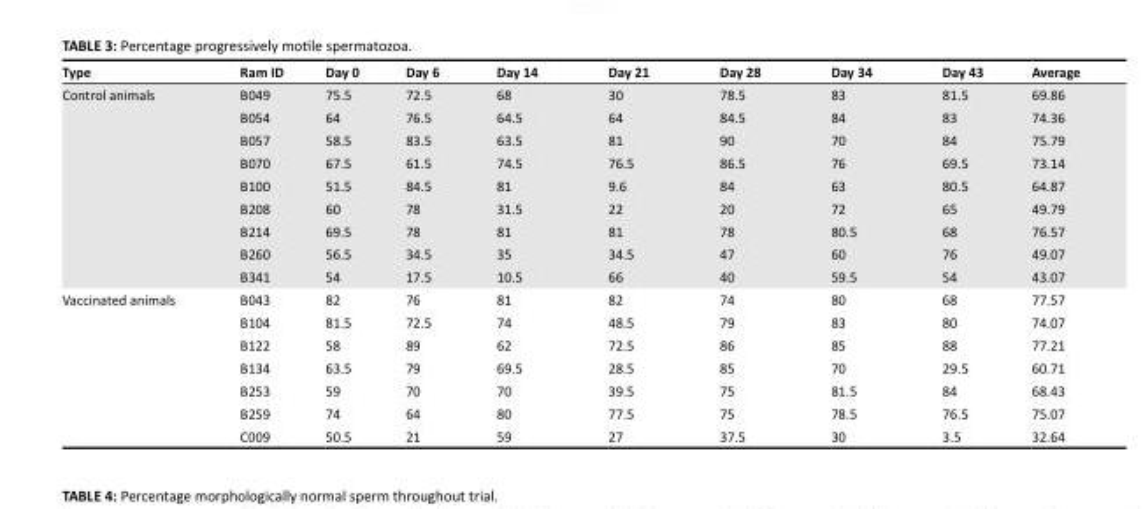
<table><thead><tr><td>Type</td><td>Ram ID</td><td>Day 0</td><td>Day 6</td><td>Day 14</td><td>Day 21</td><td>Day 28</td><td>Day 34</td><td>Day 43</td><td>Average</td></tr></thead><tbody><tr><td rowspan="9">Control animals</td><td>B049</td><td>75.5</td><td>72.5</td><td>68</td><td>30</td><td>78.5</td><td>83</td><td>81.5</td><td>69.86</td></tr><tr><td>B054</td><td>64</td><td>76.5</td><td>64.5</td><td>64</td><td>84.5</td><td>84</td><td>83</td><td>74.36</td></tr><tr><td>B057</td><td>58.5</td><td>83.5</td><td>63.5</td><td>81</td><td>90</td><td>70</td><td>84</td><td>75.79</td></tr><tr><td>B070</td><td>67.5</td><td>61.5</td><td>74.5</td><td>76.5</td><td>86.5</td><td>76</td><td>69.5</td><td>73.14</td></tr><tr><td>B100</td><td>51.5</td><td>84.5</td><td>81</td><td>9.6</td><td>84</td><td>63</td><td>80.5</td><td>64.87</td></tr><tr><td>B208</td><td>60</td><td>78</td><td>31.5</td><td>22</td><td>20</td><td>72</td><td>65</td><td>49.79</td></tr><tr><td>B214</td><td>69.5</td><td>78</td><td>81</td><td>81</td><td>78</td><td>80.5</td><td>68</td><td>76.57</td></tr><tr><td>B260</td><td>56.5</td><td>34.5</td><td>35</td><td>34.5</td><td>47</td><td>60</td><td>76</td><td>49.07</td></tr><tr><td>B341</td><td>54</td><td>17.5</td><td>10.5</td><td>66</td><td>40</td><td>59.5</td><td>54</td><td>43.07</td></tr><tr><td rowspan="7">Vaccinated animals</td><td>B043</td><td>82</td><td>76</td><td>81</td><td>82</td><td>74</td><td>80</td><td>68</td><td>77.57</td></tr><tr><td>B104</td><td>81.5</td><td>72.5</td><td>74</td><td>48.5</td><td>79</td><td>83</td><td>80</td><td>74.07</td></tr><tr><td>B122</td><td>58</td><td>89</td><td>62</td><td>72.5</td><td>86</td><td>85</td><td>88</td><td>77.21</td></tr><tr><td>B134</td><td>63.5</td><td>79</td><td>69.5</td><td>28.5</td><td>85</td><td>70</td><td>29.5</td><td>60.71</td></tr><tr><td>B253</td><td>59</td><td>70</td><td>70</td><td>39.5</td><td>75</td><td>81.5</td><td>84</td><td>68.43</td></tr><tr><td>B259</td><td>74</td><td>64</td><td>80</td><td>77.5</td><td>75</td><td>78.5</td><td>76.5</td><td>75.07</td></tr><tr><td>C009</td><td>50.5</td><td>21</td><td>59</td><td>27</td><td>37.5</td><td>30</td><td>3.5</td><td>32.64</td></tr></tbody></table>